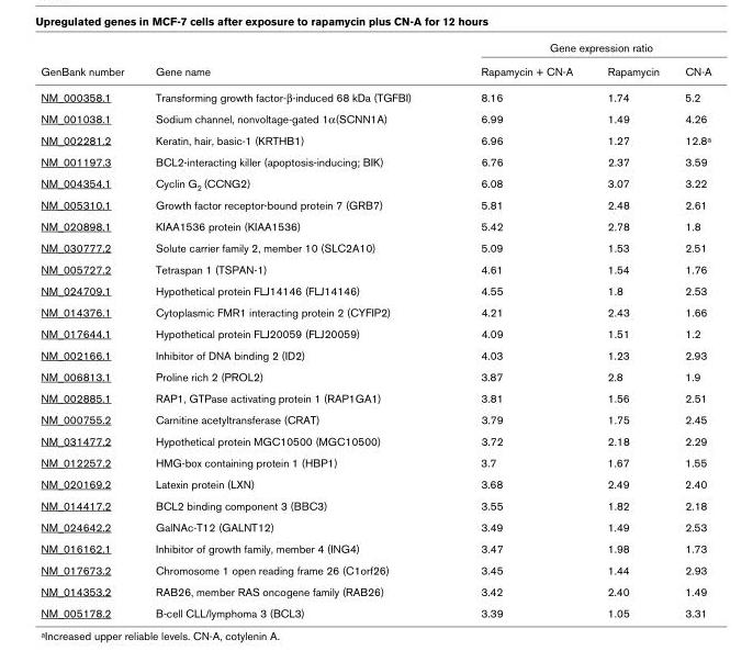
<table><thead><tr><td rowspan="2">GenBank number</td><td rowspan="2">Gene name</td><td colspan="3">Gene expression ratio</td></tr><tr><td>Rapamycin + CN-A</td><td>Rapamycin</td><td>CN-A</td></tr></thead><tbody><tr><td>NM_000358.1</td><td>Transforming growth factor-β-induced 68 kDa (TGFBI)</td><td>8.16</td><td>1.74</td><td>5.2</td></tr><tr><td>NM_001038.1</td><td>Sodium channel, nonvoltage-gated 1α(SCNN1A)</td><td>6.99</td><td>1.49</td><td>4.26</td></tr><tr><td>NM_002281.2</td><td>Keratin, hair, basic-1 (KRTHB1)</td><td>6.96</td><td>1.27</td><td>12.8a</td></tr><tr><td>NM_001197.3</td><td>BCL2-interacting killer (apoptosis-inducing; BIK)</td><td>6.76</td><td>2.37</td><td>3.59</td></tr><tr><td>NM_004354.1</td><td>Cyclin G2 (CCNG2)</td><td>6.08</td><td>3.07</td><td>3.22</td></tr><tr><td>NM_005310.1</td><td>Growth factor receptor-bound protein 7 (GRB7)</td><td>5.81</td><td>2.48</td><td>2.61</td></tr><tr><td>NM_020898.1</td><td>KIAA1536 protein (KIAA1536)</td><td>5.42</td><td>2.78</td><td>1.8</td></tr><tr><td>NM_030777.2</td><td>Solute carrier family 2, member 10 (SLC2A10)</td><td>5.09</td><td>1.53</td><td>2.51</td></tr><tr><td>NM_005727.2</td><td>Tetraspan 1 (TSPAN-1)</td><td>4.61</td><td>1.54</td><td>1.76</td></tr><tr><td>NM_024709.1</td><td>Hypothetical protein FLJ14146 (FLJ14146)</td><td>4.55</td><td>1.8</td><td>2.53</td></tr><tr><td>NM_014376.1</td><td>Cytoplasmic FMR1 interacting protein 2 (CYFIP2)</td><td>4.21</td><td>2.43</td><td>1.66</td></tr><tr><td>NM_017644.1</td><td>Hypothetical protein FLJ20059 (FLJ20059)</td><td>4.09</td><td>1.51</td><td>1.2</td></tr><tr><td>NM_002166.1</td><td>Inhibitor of DNA binding 2 (ID2)</td><td>4.03</td><td>1.23</td><td>2.93</td></tr><tr><td>NM_006813.1</td><td>Proline rich 2 (PROL2)</td><td>3.87</td><td>2.8</td><td>1.9</td></tr><tr><td>NM_002885.1</td><td>RAP1, GTPase activating protein 1 (RAP1GA1)</td><td>3.81</td><td>1.56</td><td>2.51</td></tr><tr><td>NM_000755.2</td><td>Carnitine acetyltransferase (CRAT)</td><td>3.79</td><td>1.75</td><td>2.45</td></tr><tr><td>NM_031477.2</td><td>Hypothetical protein MGC10500 (MGC10500)</td><td>3.72</td><td>2.18</td><td>2.29</td></tr><tr><td>NM_012257.2</td><td>HMG-box containing protein 1 (HBP1)</td><td>3.7</td><td>1.67</td><td>1.55</td></tr><tr><td>NM_020169.2</td><td>Latexin protein (LXN)</td><td>3.68</td><td>2.49</td><td>2.40</td></tr><tr><td>NM_014417.2</td><td>BCL2 binding component 3 (BBC3)</td><td>3.55</td><td>1.82</td><td>2.18</td></tr><tr><td>NM_024642.2</td><td>GalNAc-T12 (GALNT12)</td><td>3.49</td><td>1.49</td><td>2.53</td></tr><tr><td>NM_016162.1</td><td>Inhibitor of growth family, member 4 (ING4)</td><td>3.47</td><td>1.98</td><td>1.73</td></tr><tr><td>NM_017673.2</td><td>Chromosome 1 open reading frame 26 (C1orf26)</td><td>3.45</td><td>1.44</td><td>2.93</td></tr><tr><td>NM_014353.2</td><td>RAB26, member RAS oncogene family (RAB26)</td><td>3.42</td><td>2.40</td><td>1.49</td></tr><tr><td>NM_005178.2</td><td>B-cell CLL/lymphoma 3 (BCL3)</td><td>3.39</td><td>1.05</td><td>3.31</td></tr></tbody></table>